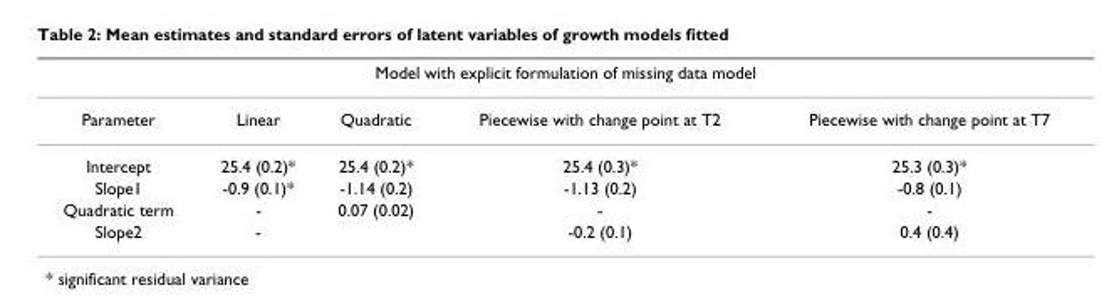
<table><thead><tr><td colspan="5">Model with explicit formulation of missing data model</td></tr><tr><td>Parameter</td><td>Linear</td><td>Quadratic</td><td>Piecewise with change point at T2</td><td>Piecewise with change point at T7</td></tr></thead><tbody><tr><td>Intercept</td><td>25.4 (0.2)*</td><td>25.4 (0.2)*</td><td>25.4 (0.3)*</td><td>25.3 (0.3)*</td></tr><tr><td>Slope1</td><td>-0.9 (0.1)*</td><td>-1.14 (0.2)</td><td>-1.13 (0.2)</td><td>-0.8 (0.1)</td></tr><tr><td>Quadratic term</td><td>-</td><td>0.07 (0.02)</td><td>-</td><td>-</td></tr><tr><td>Slope2</td><td>-</td><td></td><td>-0.2 (0.1)</td><td>0.4 (0.4)</td></tr></tbody></table>